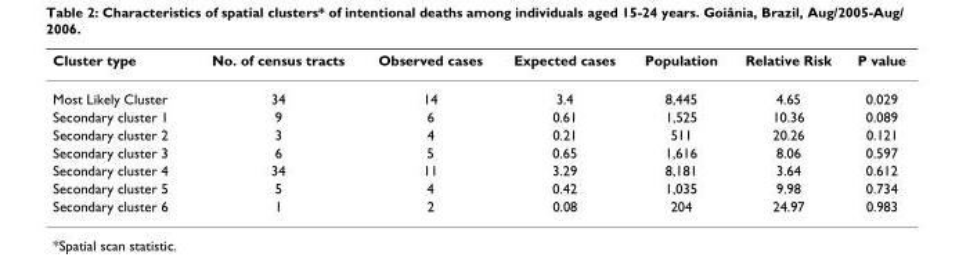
<table><thead><tr><td>Cluster type</td><td>No. of census tracts</td><td>Observed cases</td><td>Expected cases</td><td>Population</td><td>Relative Risk</td><td>P value</td></tr></thead><tbody><tr><td>Most Likely Cluster</td><td>34</td><td>14</td><td>3.4</td><td>8,445</td><td>4.65</td><td>0.029</td></tr><tr><td>Secondary cluster 1</td><td>9</td><td>6</td><td>0.61</td><td>1,525</td><td>10.36</td><td>0.089</td></tr><tr><td>Secondary cluster 2</td><td>3</td><td>4</td><td>0.21</td><td>511</td><td>20.26</td><td>0.121</td></tr><tr><td>Secondary cluster 3</td><td>6</td><td>5</td><td>0.65</td><td>1,616</td><td>8.06</td><td>0.597</td></tr><tr><td>Secondary cluster 4</td><td>34</td><td>11</td><td>3.29</td><td>8,181</td><td>3.64</td><td>0.612</td></tr><tr><td>Secondary cluster 5</td><td>5</td><td>4</td><td>0.42</td><td>1,035</td><td>9.98</td><td>0.734</td></tr><tr><td>Secondary cluster 6</td><td>1</td><td>2</td><td>0.08</td><td>204</td><td>24.97</td><td>0.983</td></tr></tbody></table>